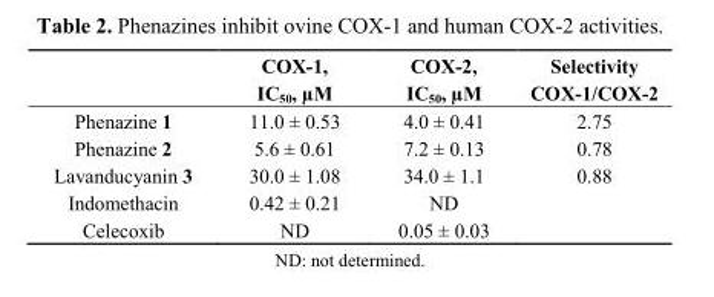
<table><thead><tr><td></td><td>COX-1, IC<sub>50</sub>, µM</td><td>COX-2, IC<sub>50</sub>, µM</td><td>Selectivity COX-1/COX-2</td></tr></thead><tbody><tr><td>Phenazine 1</td><td>11.0 ± 0.53</td><td>4.0 ± 0.41</td><td>2.75</td></tr><tr><td>Phenazine 2</td><td>5.6 ± 0.61</td><td>7.2 ± 0.13</td><td>0.78</td></tr><tr><td>Lavanducyanin 3</td><td>30.0 ± 1.08</td><td>34.0 ± 1.1</td><td>0.88</td></tr><tr><td>Indomethacin</td><td>0.42 ± 0.21</td><td>ND</td><td></td></tr><tr><td>Celecoxib</td><td>ND</td><td>0.05 ± 0.03</td><td></td></tr></tbody></table>